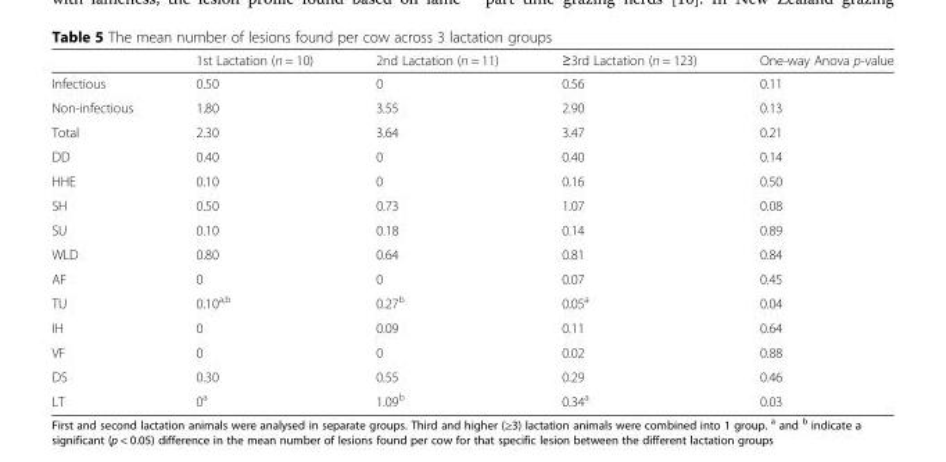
<table><thead><tr><td></td><td>1st Lactation (n = 10)</td><td>2nd Lactation (n = 11)</td><td>≥3rd Lactation (n = 123)</td><td>One-way Anova p-value</td></tr></thead><tbody><tr><td>Infectious</td><td>0.50</td><td>0</td><td>0.56</td><td>0.11</td></tr><tr><td>Non-infectious</td><td>1.80</td><td>3.55</td><td>2.90</td><td>0.13</td></tr><tr><td>Total</td><td>2.30</td><td>3.64</td><td>3.47</td><td>0.21</td></tr><tr><td>DD</td><td>0.40</td><td>0</td><td>0.40</td><td>0.14</td></tr><tr><td>HHE</td><td>0.10</td><td>0</td><td>0.16</td><td>0.50</td></tr><tr><td>SH</td><td>0.50</td><td>0.73</td><td>1.07</td><td>0.08</td></tr><tr><td>SU</td><td>0.10</td><td>0.18</td><td>0.14</td><td>0.89</td></tr><tr><td>WLD</td><td>0.80</td><td>0.64</td><td>0.81</td><td>0.84</td></tr><tr><td>AF</td><td>0</td><td>0</td><td>0.07</td><td>0.45</td></tr><tr><td>TU</td><td>0.10<sup>a,b</sup></td><td>0.27<sup>b</sup></td><td>0.05<sup>a</sup></td><td>0.04</td></tr><tr><td>IH</td><td>0</td><td>0.09</td><td>0.11</td><td>0.64</td></tr><tr><td>VF</td><td>0</td><td>0</td><td>0.02</td><td>0.88</td></tr><tr><td>DS</td><td>0.30</td><td>0.55</td><td>0.29</td><td>0.46</td></tr><tr><td>LT</td><td>0<sup>a</sup></td><td>1.09<sup>b</sup></td><td>0.34<sup>a</sup></td><td>0.03</td></tr></tbody></table>